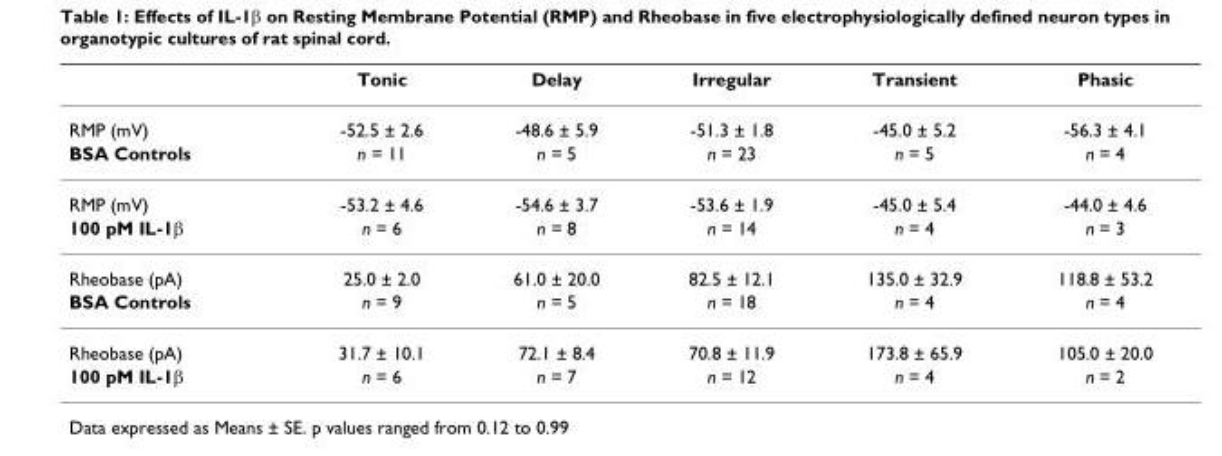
<table><thead><tr><td></td><td>Tonic</td><td>Delay</td><td>Irregular</td><td>Transient</td><td>Phasic</td></tr></thead><tbody><tr><td>RMP (mV)</td><td>-52.5 ± 2.6</td><td>-48.6 ± 5.9</td><td>-51.3 ± 1.8</td><td>-45.0 ± 5.2</td><td>-56.3 ± 4.1</td></tr><tr><td>BSA Controls</td><td>n = 11</td><td>n = 5</td><td>n = 23</td><td>n = 5</td><td>n = 4</td></tr><tr><td>RMP (mV)</td><td>-53.2 ± 4.6</td><td>-54.6 ± 3.7</td><td>-53.6 ± 1.9</td><td>-45.0 ± 5.4</td><td>-44.0 ± 4.6</td></tr><tr><td>100 pM IL-1β</td><td>n = 6</td><td>n = 8</td><td>n = 14</td><td>n = 4</td><td>n = 3</td></tr><tr><td>Rheobase (pA)</td><td>25.0 ± 2.0</td><td>61.0 ± 20.0</td><td>82.5 ± 12.1</td><td>135.0 ± 32.9</td><td>118.8 ± 53.2</td></tr><tr><td>BSA Controls</td><td>n = 9</td><td>n = 5</td><td>n = 18</td><td>n = 4</td><td>n = 4</td></tr><tr><td>Rheobase (pA)</td><td>31.7 ± 10.1</td><td>72.1 ± 8.4</td><td>70.8 ± 11.9</td><td>173.8 ± 65.9</td><td>105.0 ± 20.0</td></tr><tr><td>100 pM IL-1β</td><td>n = 6</td><td>n = 7</td><td>n = 12</td><td>n = 4</td><td>n = 2</td></tr></tbody></table>